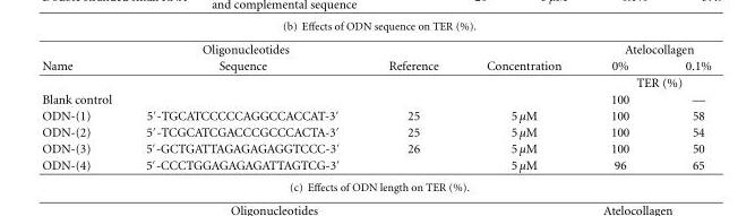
<table><thead><tr><td colspan="3">Oligonucleotides</td><td rowspan="2">Concentration</td><td colspan="2">Atelocollagen</td></tr><tr><td>Name</td><td>Sequence</td><td>Reference</td><td>0%</td><td>0.1%</td></tr></thead><tbody><tr><td></td><td></td><td></td><td></td><td colspan="2">TER (%)</td></tr><tr><td>Blank control</td><td></td><td></td><td></td><td>100</td><td>—</td></tr><tr><td>ODN-(1)</td><td>5′-TGCATCCCCCAGGCCACCAT-3′</td><td>25</td><td>5 μM</td><td>100</td><td>58</td></tr><tr><td>ODN-(2)</td><td>5′-TCGCATCGACCCGCCCACTA-3′</td><td>25</td><td>5 μM</td><td>100</td><td>54</td></tr><tr><td>ODN-(3)</td><td>5′-GCTGATTAGAGAGAGGTCCC-3′</td><td>26</td><td>5 μM</td><td>100</td><td>50</td></tr><tr><td>ODN-(4)</td><td>5′-CCCTGGAGAGAGATTAGTCG-3′</td><td></td><td>5 μM</td><td>96</td><td>65</td></tr></tbody></table>